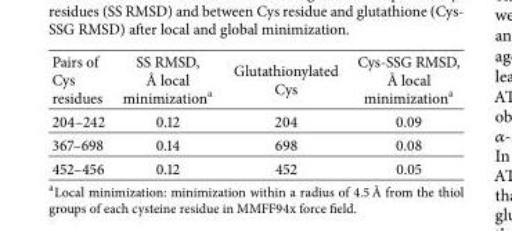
<table><thead><tr><td>Pairs of Cys residues</td><td>SS RMSD, ˚A local minimizationa</td><td>Glutathionylated Cys</td><td>Cys-SSG RMSD, ˚A local minimizationa</td></tr></thead><tbody><tr><td>204–242</td><td>0.12</td><td>204</td><td>0.09</td></tr><tr><td>367–698</td><td>0.14</td><td>698</td><td>0.08</td></tr><tr><td>452–456</td><td>0.12</td><td>452</td><td>0.05</td></tr></tbody></table>